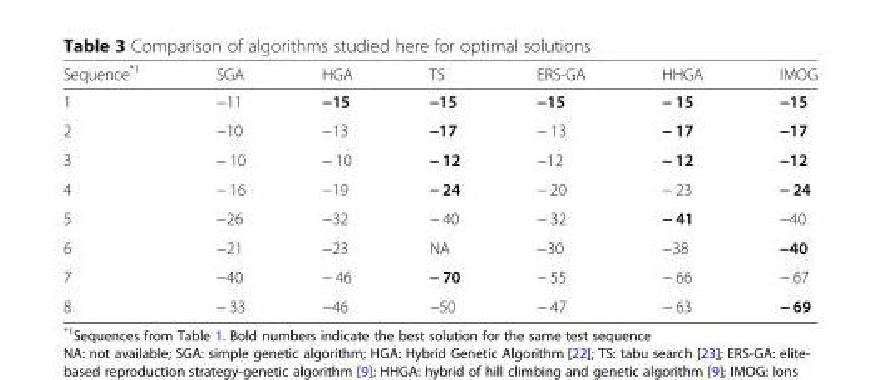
<table><thead><tr><td>Sequence<sup>*1</sup></td><td>SGA</td><td>HGA</td><td>TS</td><td>ERS-GA</td><td>HHGA</td><td>IMOG</td></tr></thead><tbody><tr><td>1</td><td>−11</td><td>−15</td><td>−15</td><td>−15</td><td>− 15</td><td>−15</td></tr><tr><td>2</td><td>−10</td><td>−13</td><td>−17</td><td>− 13</td><td>− 17</td><td>−17</td></tr><tr><td>3</td><td>− 10</td><td>− 10</td><td>− 12</td><td>−12</td><td>− 12</td><td>−12</td></tr><tr><td>4</td><td>− 16</td><td>−19</td><td>− 24</td><td>− 20</td><td>− 23</td><td>− 24</td></tr><tr><td>5</td><td>−26</td><td>−32</td><td>− 40</td><td>− 32</td><td>− 41</td><td>−40</td></tr><tr><td>6</td><td>−21</td><td>−23</td><td>NA</td><td>−30</td><td>−38</td><td>−40</td></tr><tr><td>7</td><td>−40</td><td>− 46</td><td>− 70</td><td>− 55</td><td>− 66</td><td>− 67</td></tr><tr><td>8</td><td>− 33</td><td>−46</td><td>−50</td><td>− 47</td><td>− 63</td><td>− 69</td></tr></tbody></table>